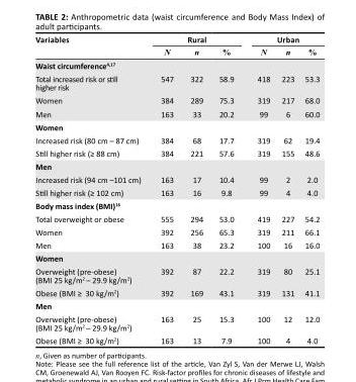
<table><thead><tr><td rowspan="2">Variables</td><td colspan="3">Rural</td><td colspan="3">Urban</td></tr><tr><td>N</td><td>n</td><td>%</td><td>N</td><td>n</td><td>%</td></tr></thead><tbody><tr><td colspan="7">Waist circumference<sup>4,17</sup></td></tr><tr><td>Total increased risk or still higher risk</td><td>547</td><td>322</td><td>58.9</td><td>418</td><td>223</td><td>53.3</td></tr><tr><td>Women</td><td>384</td><td>289</td><td>75.3</td><td>319</td><td>217</td><td>68.0</td></tr><tr><td>Men</td><td>163</td><td>33</td><td>20.2</td><td>99</td><td>6</td><td>60.0</td></tr><tr><td colspan="7">Women</td></tr><tr><td>Increased risk (80 cm – 87 cm)</td><td>384</td><td>68</td><td>17.7</td><td>319</td><td>62</td><td>19.4</td></tr><tr><td>Still higher risk (≥ 88 cm)</td><td>384</td><td>221</td><td>57.6</td><td>319</td><td>155</td><td>48.6</td></tr><tr><td colspan="7">Men</td></tr><tr><td>Increased risk (94 cm –101 cm)</td><td>163</td><td>17</td><td>10.4</td><td>99</td><td>2</td><td>2.0</td></tr><tr><td>Still higher risk (≥ 102 cm)</td><td>163</td><td>16</td><td>9.8</td><td>99</td><td>4</td><td>4.0</td></tr><tr><td colspan="7">Body mass index (BMI)<sup>16</sup></td></tr><tr><td>Total overweight or obese</td><td>555</td><td>294</td><td>53.0</td><td>419</td><td>227</td><td>54.2</td></tr><tr><td>Women</td><td>392</td><td>256</td><td>65.3</td><td>319</td><td>211</td><td>66.1</td></tr><tr><td>Men</td><td>163</td><td>38</td><td>23.2</td><td>100</td><td>16</td><td>16.0</td></tr><tr><td colspan="7">Women</td></tr><tr><td>Overweight (pre-obese) (BMI 25 kg/m<sup>2</sup> – 29.9 kg/m<sup>2</sup>)</td><td>392</td><td>87</td><td>22.2</td><td>319</td><td>80</td><td>25.1</td></tr><tr><td>Obese (BMI ≥ 30 kg/m<sup>2</sup>)</td><td>392</td><td>169</td><td>43.1</td><td>319</td><td>131</td><td>41.1</td></tr><tr><td colspan="7">Men</td></tr><tr><td>Overweight (pre-obese) (BMI 25 kg/m<sup>2</sup> – 29.9 kg/m<sup>2</sup>)</td><td>163</td><td>25</td><td>15.3</td><td>100</td><td>12</td><td>12.0</td></tr><tr><td>Obese (BMI ≥ 30 kg/m<sup>2</sup>)</td><td>163</td><td>13</td><td>7.9</td><td>100</td><td>4</td><td>4.0</td></tr></tbody></table>